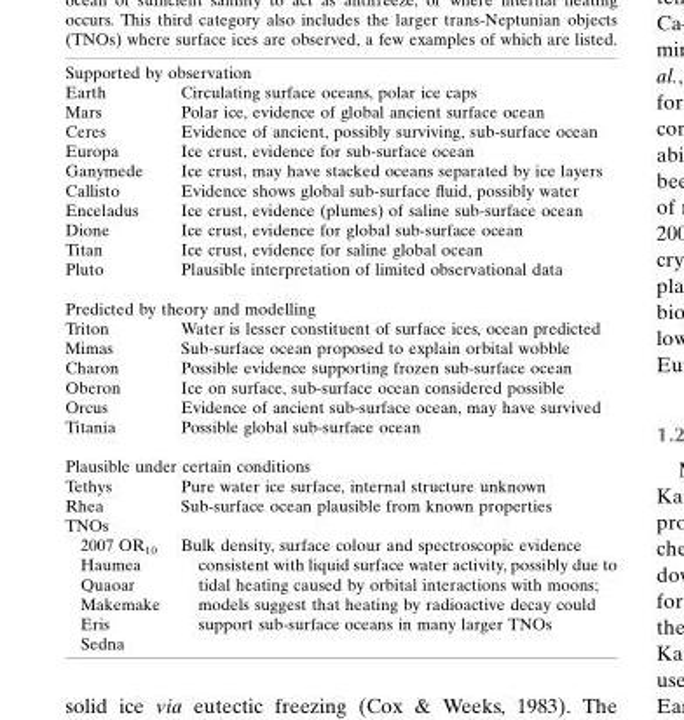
<table><tbody><tr><td colspan="2">Supported by observation</td></tr><tr><td>Earth</td><td>Circulating surface oceans, polar ice caps</td></tr><tr><td>Mars</td><td>Polar ice, evidence of global ancient surface ocean</td></tr><tr><td>Ceres</td><td>Evidence of ancient, possibly surviving, sub-surface ocean</td></tr><tr><td>Europa</td><td>Ice crust, evidence for sub-surface ocean</td></tr><tr><td>Ganymede</td><td>Ice crust, may have stacked oceans separated by ice layers</td></tr><tr><td>Callisto</td><td>Evidence shows global sub-surface fluid, possibly water</td></tr><tr><td>Enceladus</td><td>Ice crust, evidence (plumes) of saline sub-surface ocean</td></tr><tr><td>Dione</td><td>Ice crust, evidence for global sub-surface ocean</td></tr><tr><td>Titan</td><td>Ice crust, evidence for saline global ocean</td></tr><tr><td>Pluto</td><td>Plausible interpretation of limited observational data</td></tr><tr><td colspan="2">Predicted by theory and modelling</td></tr><tr><td>Triton</td><td>Water is lesser constituent of surface ices, ocean predicted</td></tr><tr><td>Mimas</td><td>Sub-surface ocean proposed to explain orbital wobble</td></tr><tr><td>Charon</td><td>Possible evidence supporting frozen sub-surface ocean</td></tr><tr><td>Oberon</td><td>Ice on surface, sub-surface ocean considered possible</td></tr><tr><td>Orcus</td><td>Evidence of ancient sub-surface ocean, may have survived</td></tr><tr><td>Titania</td><td>Possible global sub-surface ocean</td></tr><tr><td colspan="2">Plausible under certain conditions</td></tr><tr><td>Tethys</td><td>Pure water ice surface, internal structure unknown</td></tr><tr><td>Rhea</td><td>Sub-surface ocean plausible from known properties</td></tr><tr><td colspan="2">TNOs</td></tr><tr><td>2007 OR<sub>10</sub></td><td rowspan="6">Bulk density, surface colour and spectroscopic evidence consistent with liquid surface water activity, possibly due to tidal heating caused by orbital interactions with moons; models suggest that heating by radioactive decay could support sub-surface oceans in many larger TNOs</td></tr><tr><td>Haumea</td></tr><tr><td>Quaoar</td></tr><tr><td>Makemake</td></tr><tr><td>Eris</td></tr><tr><td>Sedna</td></tr></tbody></table>